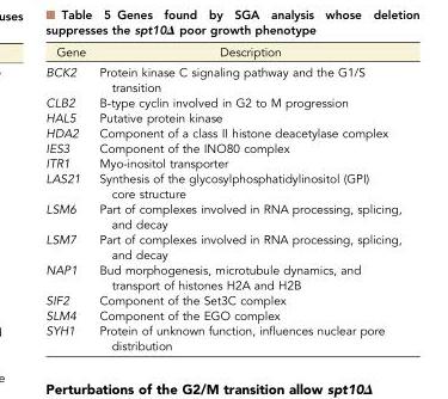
<table><thead><tr><td>Gene</td><td>Description</td></tr></thead><tbody><tr><td>BCK2</td><td>Protein kinase C signaling pathway and the G1/S transition</td></tr><tr><td>CLB2</td><td>B-type cyclin involved in G2 to M progression</td></tr><tr><td>HAL5</td><td>Putative protein kinase</td></tr><tr><td>HDA2</td><td>Component of a class II histone deacetylase complex</td></tr><tr><td>IES3</td><td>Component of the INO80 complex</td></tr><tr><td>ITR1</td><td>Myo-inositol transporter</td></tr><tr><td>LAS21</td><td>Synthesis of the glycosylphosphatidylinositol (GPI) core structure</td></tr><tr><td>LSM6</td><td>Part of complexes involved in RNA processing, splicing, and decay</td></tr><tr><td>LSM7</td><td>Part of complexes involved in RNA processing, splicing, and decay</td></tr><tr><td>NAP1</td><td>Bud morphogenesis, microtubule dynamics, and transport of histones H2A and H2B</td></tr><tr><td>SIF2</td><td>Component of the Set3C complex</td></tr><tr><td>SLM4</td><td>Component of the EGO complex</td></tr><tr><td>SYH1</td><td>Protein of unknown function, influences nuclear pore distribution</td></tr></tbody></table>